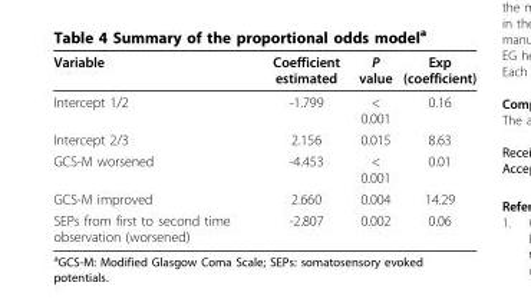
<table><thead><tr><td>Variable</td><td>Coefficient estimated</td><td>P value</td><td>Exp (coefficient)</td></tr></thead><tbody><tr><td>Intercept 1/2</td><td>-1.799</td><td>&lt; 0.001</td><td>0.16</td></tr><tr><td>Intercept 2/3</td><td>2.156</td><td>0.015</td><td>8.63</td></tr><tr><td>GCS-M worsened</td><td>-4.453</td><td>&lt; 0.001</td><td>0.01</td></tr><tr><td>GCS-M improved</td><td>2.660</td><td>0.004</td><td>14.29</td></tr><tr><td>SEPs from first to second time observation (worsened)</td><td>-2.807</td><td>0.002</td><td>0.06</td></tr></tbody></table>